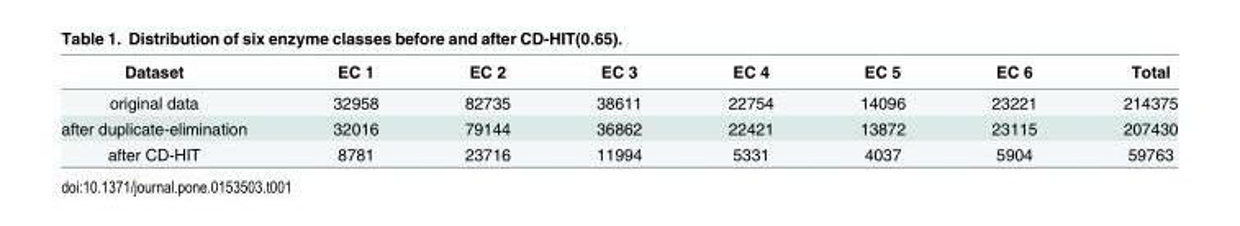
<table><thead><tr><td>Dataset</td><td>EC 1</td><td>EC 2</td><td>EC 3</td><td>EC 4</td><td>EC 5</td><td>EC 6</td><td>Total</td></tr></thead><tbody><tr><td>original data</td><td>32958</td><td>82735</td><td>38611</td><td>22754</td><td>14096</td><td>23221</td><td>214375</td></tr><tr><td>after duplicate-elimination</td><td>32016</td><td>79144</td><td>36862</td><td>22421</td><td>13872</td><td>23115</td><td>207430</td></tr><tr><td>after CD-HIT</td><td>8781</td><td>23716</td><td>11994</td><td>5331</td><td>4037</td><td>5904</td><td>59763</td></tr></tbody></table>